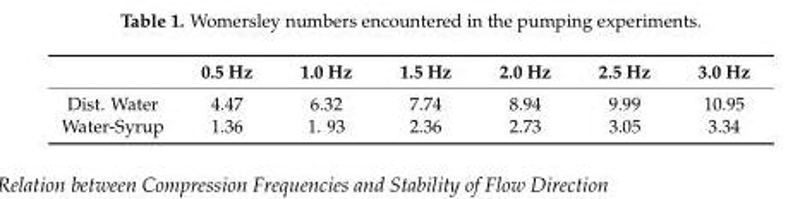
<table><thead><tr><td></td><td>0.5 Hz</td><td>1.0 Hz</td><td>1.5 Hz</td><td>2.0 Hz</td><td>2.5 Hz</td><td>3.0 Hz</td></tr></thead><tbody><tr><td>Dist. Water</td><td>4.47</td><td>6.32</td><td>7.74</td><td>8.94</td><td>9.99</td><td>10.95</td></tr><tr><td>Water-Syrup</td><td>1.36</td><td>1. 93</td><td>2.36</td><td>2.73</td><td>3.05</td><td>3.34</td></tr></tbody></table>